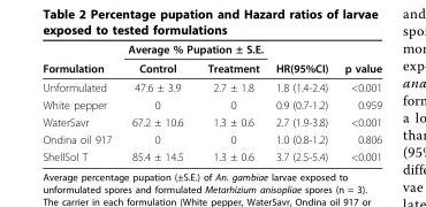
<table><thead><tr><td rowspan="2">Formulation</td><td colspan="2">Average % Pupation ± S.E.</td><td rowspan="2">HR(95%CI)</td><td rowspan="2">p value</td></tr><tr><td>Control</td><td>Treatment</td></tr></thead><tbody><tr><td>Unformulated</td><td>47.6 ± 3.9</td><td>2.7 ± 1.8</td><td>1.8 (1.4-2.4)</td><td>&lt;0.001</td></tr><tr><td>White pepper</td><td>0</td><td>0</td><td>0.9 (0.7-1.2)</td><td>0.959</td></tr><tr><td>WaterSavr</td><td>67.2 ± 10.6</td><td>1.3 ± 0.6</td><td>2.7 (1.9-3.8)</td><td>&lt;0.001</td></tr><tr><td>Ondina oil 917</td><td>0</td><td>0</td><td>1.0 (0.8-1.2)</td><td>0.806</td></tr><tr><td>ShellSol T</td><td>85.4 ± 14.5</td><td>1.3 ± 0.6</td><td>3.7 (2.5-5.4)</td><td>&lt;0.001</td></tr></tbody></table>